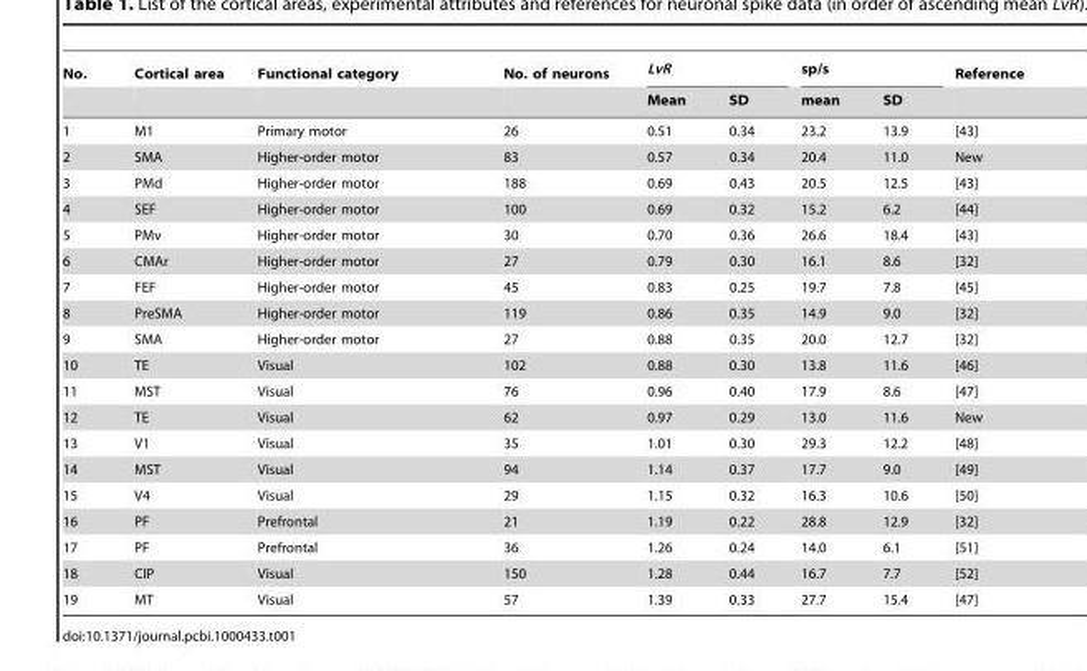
<table><thead><tr><td rowspan="2">No.</td><td rowspan="2">Cortical area</td><td rowspan="2">Functional category</td><td rowspan="2">No. of neurons</td><td colspan="2">LvR</td><td colspan="2">sp/s</td><td rowspan="2">Reference</td></tr><tr><td>Mean</td><td>SD</td><td>mean</td><td>SD</td></tr></thead><tbody><tr><td>1</td><td>M1</td><td>Primary motor</td><td>26</td><td>0.51</td><td>0.34</td><td>23.2</td><td>13.9</td><td>[43]</td></tr><tr><td>2</td><td>SMA</td><td>Higher-order motor</td><td>83</td><td>0.57</td><td>0.34</td><td>20.4</td><td>11.0</td><td>New</td></tr><tr><td>3</td><td>PMd</td><td>Higher-order motor</td><td>188</td><td>0.69</td><td>0.43</td><td>20.5</td><td>12.5</td><td>[43]</td></tr><tr><td>4</td><td>SEF</td><td>Higher-order motor</td><td>100</td><td>0.69</td><td>0.32</td><td>15.2</td><td>6.2</td><td>[44]</td></tr><tr><td>5</td><td>PMv</td><td>Higher-order motor</td><td>30</td><td>0.70</td><td>0.36</td><td>26.6</td><td>18.4</td><td>[43]</td></tr><tr><td>6</td><td>CMAr</td><td>Higher-order motor</td><td>27</td><td>0.79</td><td>0.30</td><td>16.1</td><td>8.6</td><td>[32]</td></tr><tr><td>7</td><td>FEF</td><td>Higher-order motor</td><td>45</td><td>0.83</td><td>0.25</td><td>19.7</td><td>7.8</td><td>[45]</td></tr><tr><td>8</td><td>PreSMA</td><td>Higher-order motor</td><td>119</td><td>0.86</td><td>0.35</td><td>14.9</td><td>9.0</td><td>[32]</td></tr><tr><td>9</td><td>SMA</td><td>Higher-order motor</td><td>27</td><td>0.88</td><td>0.35</td><td>20.0</td><td>12.7</td><td>[32]</td></tr><tr><td>10</td><td>TE</td><td>Visual</td><td>102</td><td>0.88</td><td>0.30</td><td>13.8</td><td>11.6</td><td>[46]</td></tr><tr><td>11</td><td>MST</td><td>Visual</td><td>76</td><td>0.96</td><td>0.40</td><td>17.9</td><td>8.6</td><td>[47]</td></tr><tr><td>12</td><td>TE</td><td>Visual</td><td>62</td><td>0.97</td><td>0.29</td><td>13.0</td><td>11.6</td><td>New</td></tr><tr><td>13</td><td>V1</td><td>Visual</td><td>35</td><td>1.01</td><td>0.30</td><td>29.3</td><td>12.2</td><td>[48]</td></tr><tr><td>14</td><td>MST</td><td>Visual</td><td>94</td><td>1.14</td><td>0.37</td><td>17.7</td><td>9.0</td><td>[49]</td></tr><tr><td>15</td><td>V4</td><td>Visual</td><td>29</td><td>1.15</td><td>0.32</td><td>16.3</td><td>10.6</td><td>[50]</td></tr><tr><td>16</td><td>PF</td><td>Prefrontal</td><td>21</td><td>1.19</td><td>0.22</td><td>28.8</td><td>12.9</td><td>[32]</td></tr><tr><td>17</td><td>PF</td><td>Prefrontal</td><td>36</td><td>1.26</td><td>0.24</td><td>14.0</td><td>6.1</td><td>[51]</td></tr><tr><td>18</td><td>CIP</td><td>Visual</td><td>150</td><td>1.28</td><td>0.44</td><td>16.7</td><td>7.7</td><td>[52]</td></tr><tr><td>19</td><td>MT</td><td>Visual</td><td>57</td><td>1.39</td><td>0.33</td><td>27.7</td><td>15.4</td><td>[47]</td></tr></tbody></table>